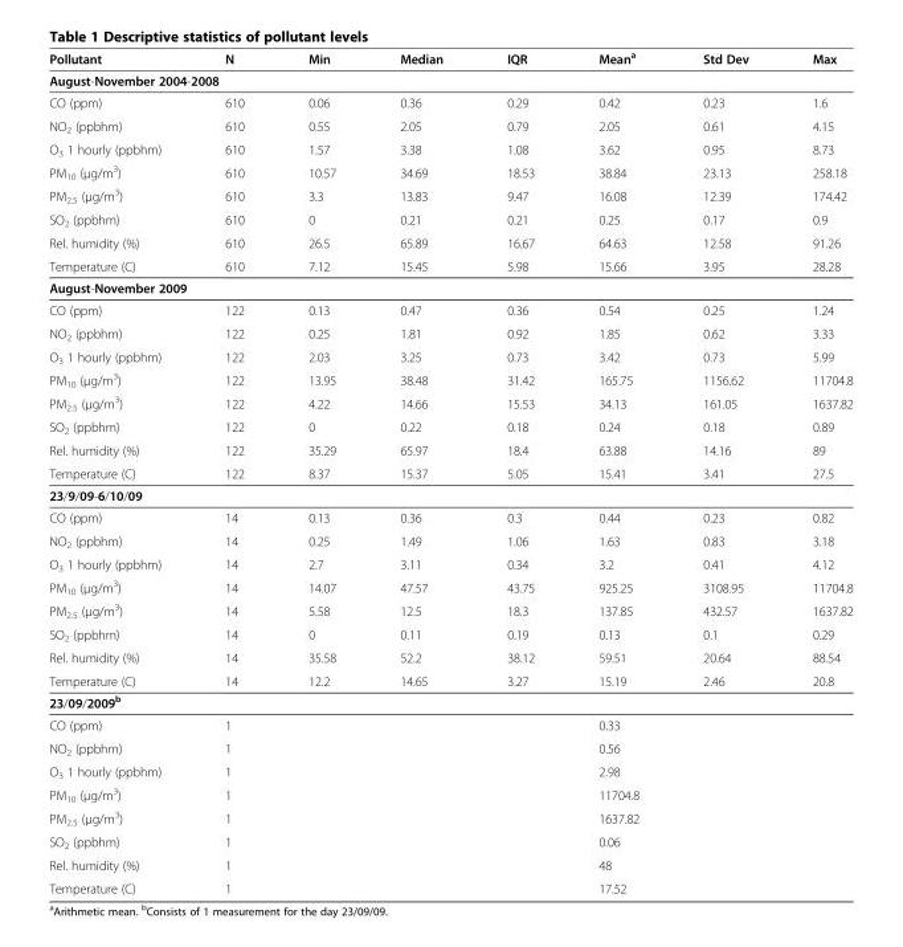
<table><thead><tr><td>Pollutant</td><td>N</td><td>Min</td><td>Median</td><td>IQR</td><td>Mean<sup>a</sup></td><td>Std Dev</td><td>Max</td></tr></thead><tbody><tr><td colspan="8">August-November 2004-2008</td></tr><tr><td>CO (ppm)</td><td>610</td><td>0.06</td><td>0.36</td><td>0.29</td><td>0.42</td><td>0.23</td><td>1.6</td></tr><tr><td>NO<sub>2</sub> (ppbhm)</td><td>610</td><td>0.55</td><td>2.05</td><td>0.79</td><td>2.05</td><td>0.61</td><td>4.15</td></tr><tr><td>O<sub>3</sub> 1 hourly (ppbhm)</td><td>610</td><td>1.57</td><td>3.38</td><td>1.08</td><td>3.62</td><td>0.95</td><td>8.73</td></tr><tr><td>PM<sub>10</sub> (μg/m<sup>3</sup>)</td><td>610</td><td>10.57</td><td>34.69</td><td>18.53</td><td>38.84</td><td>23.13</td><td>258.18</td></tr><tr><td>PM<sub>2.5</sub> (μg/m<sup>3</sup>)</td><td>610</td><td>3.3</td><td>13.83</td><td>9.47</td><td>16.08</td><td>12.39</td><td>174.42</td></tr><tr><td>SO<sub>2</sub> (ppbhm)</td><td>610</td><td>0</td><td>0.21</td><td>0.21</td><td>0.25</td><td>0.17</td><td>0.9</td></tr><tr><td>Rel. humidity (%)</td><td>610</td><td>26.5</td><td>65.89</td><td>16.67</td><td>64.63</td><td>12.58</td><td>91.26</td></tr><tr><td>Temperature (C)</td><td>610</td><td>7.12</td><td>15.45</td><td>5.98</td><td>15.66</td><td>3.95</td><td>28.28</td></tr><tr><td colspan="8">August-November 2009</td></tr><tr><td>CO (ppm)</td><td>122</td><td>0.13</td><td>0.47</td><td>0.36</td><td>0.54</td><td>0.25</td><td>1.24</td></tr><tr><td>NO<sub>2</sub> (ppbhm)</td><td>122</td><td>0.25</td><td>1.81</td><td>0.92</td><td>1.85</td><td>0.62</td><td>3.33</td></tr><tr><td>O<sub>3</sub> 1 hourly (ppbhm)</td><td>122</td><td>2.03</td><td>3.25</td><td>0.73</td><td>3.42</td><td>0.73</td><td>5.99</td></tr><tr><td>PM<sub>10</sub> (μg/m<sup>3</sup>)</td><td>122</td><td>13.95</td><td>38.48</td><td>31.42</td><td>165.75</td><td>1156.62</td><td>11704.8</td></tr><tr><td>PM<sub>2.5</sub> (μg/m<sup>3</sup>)</td><td>122</td><td>4.22</td><td>14.66</td><td>15.53</td><td>34.13</td><td>161.05</td><td>1637.82</td></tr><tr><td>SO<sub>2</sub> (ppbhm)</td><td>122</td><td>0</td><td>0.22</td><td>0.18</td><td>0.24</td><td>0.18</td><td>0.89</td></tr><tr><td>Rel. humidity (%)</td><td>122</td><td>35.29</td><td>65.97</td><td>18.4</td><td>63.88</td><td>14.16</td><td>89</td></tr><tr><td>Temperature (C)</td><td>122</td><td>8.37</td><td>15.37</td><td>5.05</td><td>15.41</td><td>3.41</td><td>27.5</td></tr><tr><td colspan="8">23/9/09-6/10/09</td></tr><tr><td>CO (ppm)</td><td>14</td><td>0.13</td><td>0.36</td><td>0.3</td><td>0.44</td><td>0.23</td><td>0.82</td></tr><tr><td>NO<sub>2</sub> (ppbhm)</td><td>14</td><td>0.25</td><td>1.49</td><td>1.06</td><td>1.63</td><td>0.83</td><td>3.18</td></tr><tr><td>O<sub>3</sub> 1 hourly (ppbhm)</td><td>14</td><td>2.7</td><td>3.11</td><td>0.34</td><td>3.2</td><td>0.41</td><td>4.12</td></tr><tr><td>PM<sub>10</sub> (μg/m<sup>3</sup>)</td><td>14</td><td>14.07</td><td>47.57</td><td>43.75</td><td>925.25</td><td>3108.95</td><td>11704.8</td></tr><tr><td>PM<sub>2.5</sub> (μg/m<sup>3</sup>)</td><td>14</td><td>5.58</td><td>12.5</td><td>18.3</td><td>137.85</td><td>432.57</td><td>1637.82</td></tr><tr><td>SO<sub>2</sub> (ppbhm)</td><td>14</td><td>0</td><td>0.11</td><td>0.19</td><td>0.13</td><td>0.1</td><td>0.29</td></tr><tr><td>Rel. humidity (%)</td><td>14</td><td>35.58</td><td>52.2</td><td>38.12</td><td>59.51</td><td>20.64</td><td>88.54</td></tr><tr><td>Temperature (C)</td><td>14</td><td>12.2</td><td>14.65</td><td>3.27</td><td>15.19</td><td>2.46</td><td>20.8</td></tr><tr><td colspan="8">23/09/2009<sup>b</sup></td></tr><tr><td>CO (ppm)</td><td>1</td><td></td><td></td><td></td><td>0.33</td><td></td><td></td></tr><tr><td>NO<sub>2</sub> (ppbhm)</td><td>1</td><td></td><td></td><td></td><td>0.56</td><td></td><td></td></tr><tr><td>O<sub>3</sub> 1 hourly (ppbhm)</td><td>1</td><td></td><td></td><td></td><td>2.98</td><td></td><td></td></tr><tr><td>PM<sub>10</sub> (μg/m<sup>3</sup>)</td><td>1</td><td></td><td></td><td></td><td>11704.8</td><td></td><td></td></tr><tr><td>PM<sub>2.5</sub> (μg/m<sup>3</sup>)</td><td>1</td><td></td><td></td><td></td><td>1637.82</td><td></td><td></td></tr><tr><td>SO<sub>2</sub> (ppbhm)</td><td>1</td><td></td><td></td><td></td><td>0.06</td><td></td><td></td></tr><tr><td>Rel. humidity (%)</td><td>1</td><td></td><td></td><td></td><td>48</td><td></td><td></td></tr><tr><td>Temperature (C)</td><td>1</td><td></td><td></td><td></td><td>17.52</td><td></td><td></td></tr></tbody></table>